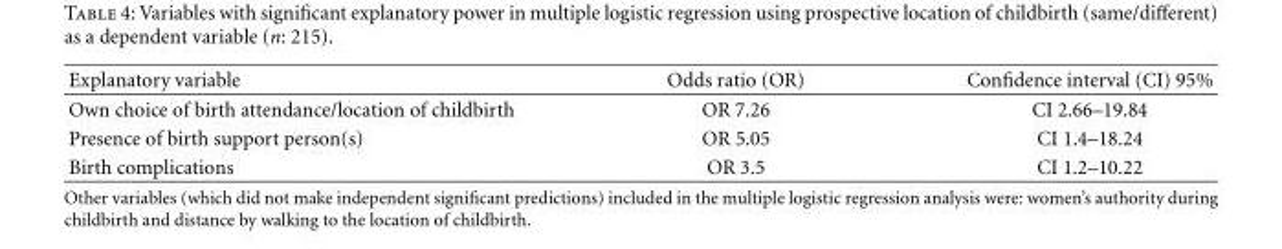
<table><thead><tr><td>Explanatory variable</td><td>Odds ratio (OR)</td><td>Confidence interval (CI) 95%</td></tr></thead><tbody><tr><td>Own choice of birth attendance/location of childbirth</td><td>OR 7.26</td><td>CI 2.66–19.84</td></tr><tr><td>Presence of birth support person(s)</td><td>OR 5.05</td><td>CI 1.4–18.24</td></tr><tr><td>Birth complications</td><td>OR 3.5</td><td>CI 1.2–10.22</td></tr></tbody></table>